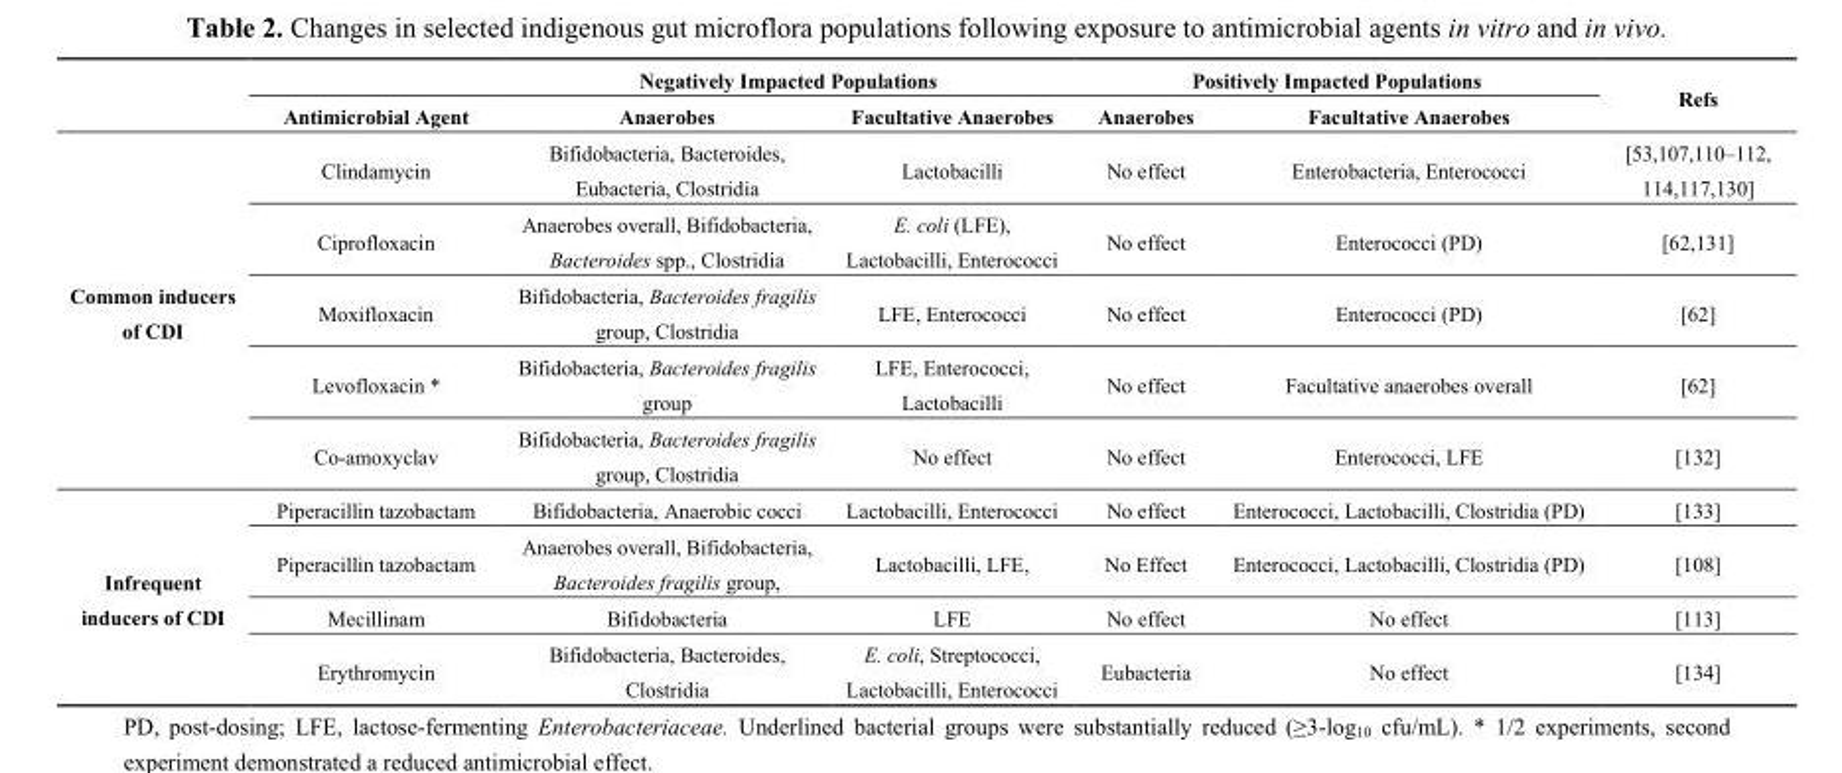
<table><thead><tr><td rowspan="2"></td><td rowspan="2">Antimicrobial Agent</td><td colspan="2">Negatively Impacted Populations</td><td colspan="2">Positively Impacted Populations</td><td rowspan="2">Refs</td></tr><tr><td>Anaerobes</td><td>Facultative Anaerobes</td><td>Anaerobes</td><td>Facultative Anaerobes</td></tr></thead><tbody><tr><td rowspan="5">Common inducers of CDI</td><td>Clindamycin</td><td>Bifidobacteria, Bacteroides, Eubacteria, Clostridia</td><td>Lactobacilli</td><td>No effect</td><td>Enterobacteria, Enterococci</td><td>[53,107,110–112, 114,117,130]</td></tr><tr><td>Ciprofloxacin</td><td>Anaerobes overall, Bifidobacteria, Bacteroides spp., Clostridia</td><td>E. coli (LFE), Lactobacilli, Enterococci</td><td>No effect</td><td>Enterococci (PD)</td><td>[62,131]</td></tr><tr><td>Moxifloxacin</td><td>Bifidobacteria, Bacteroides fragilis group, Clostridia</td><td>LFE, Enterococci</td><td>No effect</td><td>Enterococci (PD)</td><td>[62]</td></tr><tr><td>Levofloxacin *</td><td>Bifidobacteria, Bacteroides fragilis group</td><td>LFE, Enterococci, Lactobacilli</td><td>No effect</td><td>Facultative anaerobes overall</td><td>[62]</td></tr><tr><td>Co-amoxyclav</td><td>Bifidobacteria, Bacteroides fragilis group, Clostridia</td><td>No effect</td><td>No effect</td><td>Enterococci, LFE</td><td>[132]</td></tr><tr><td rowspan="4">Infrequent inducers of CDI</td><td>Piperacillin tazobactam</td><td>Bifidobacteria, Anaerobic cocci</td><td>Lactobacilli, Enterococci</td><td>No effect</td><td>Enterococci, Lactobacilli, Clostridia (PD)</td><td>[133]</td></tr><tr><td>Piperacillin tazobactam</td><td>Anaerobes overall, Bifidobacteria, Bacteroides fragilis group,</td><td>Lactobacilli, LFE,</td><td>No Effect</td><td>Enterococci, Lactobacilli, Clostridia (PD)</td><td>[108]</td></tr><tr><td>Mecillinam</td><td>Bifidobacteria</td><td>LFE</td><td>No effect</td><td>No effect</td><td>[113]</td></tr><tr><td>Erythromycin</td><td>Bifidobacteria, Bacteroides, Clostridia</td><td>E. coli, Streptococci, Lactobacilli, Enterococci</td><td>Eubacteria</td><td>No effect</td><td>[134]</td></tr></tbody></table>